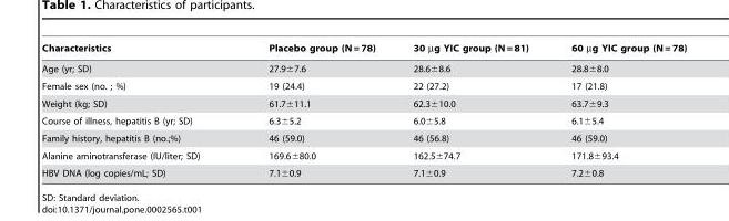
<table><thead><tr><td>Characteristics</td><td>Placebo group (N = 78)</td><td>30 µg YIC group (N = 81)</td><td>60 µg YIC group (N = 78)</td></tr></thead><tbody><tr><td>Age (yr; SD)</td><td>27.9±7.6</td><td>28.6±8.6</td><td>28.8±8.0</td></tr><tr><td>Female sex (no. ; %)</td><td>19 (24.4)</td><td>22 (27.2)</td><td>17 (21.8)</td></tr><tr><td>Weight (kg; SD)</td><td>61.7±11.1</td><td>62.3±10.0</td><td>63.7±9.3</td></tr><tr><td>Course of illness, hepatitis B (yr; SD)</td><td>6.3±5.2</td><td>6.0±5.8</td><td>6.1±5.4</td></tr><tr><td>Family history, hepatitis B (no.;%)</td><td>46 (59.0)</td><td>46 (56.8)</td><td>46 (59.0)</td></tr><tr><td>Alanine aminotransferase (IU/liter; SD)</td><td>169.6±80.0</td><td>162.5±74.7</td><td>171.8±93.4</td></tr><tr><td>HBV DNA (log copies/mL; SD)</td><td>7.1±0.9</td><td>7.1±0.9</td><td>7.2±0.8</td></tr></tbody></table>